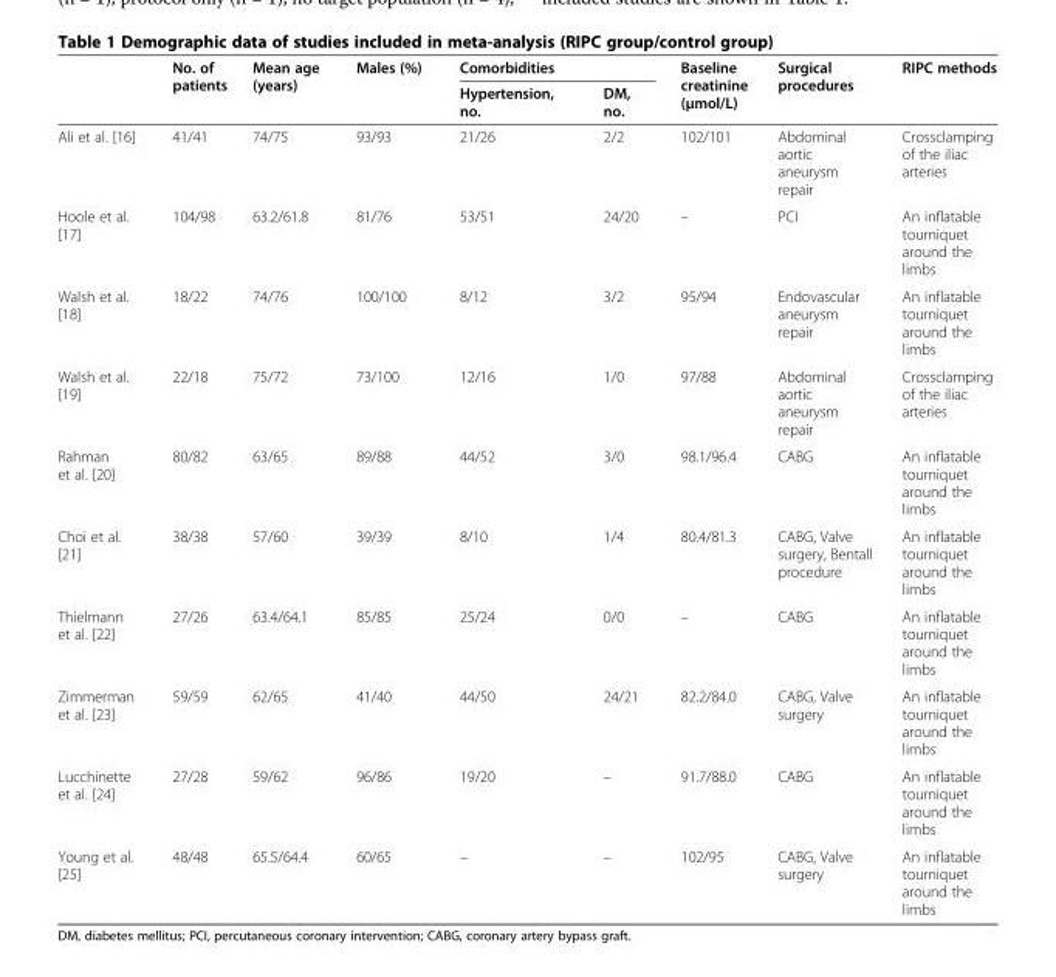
<table><thead><tr><td rowspan="2"></td><td rowspan="2">No. of patients</td><td rowspan="2">Mean age (years)</td><td rowspan="2">Males (%)</td><td colspan="2">Comorbidities</td><td rowspan="2">Baseline creatinine (μmol/L)</td><td rowspan="2">Surgical procedures</td><td rowspan="2">RIPC methods</td></tr><tr><td>Hypertension, no.</td><td>DM, no.</td></tr></thead><tbody><tr><td>Ali et al. [16]</td><td>41/41</td><td>74/75</td><td>93/93</td><td>21/26</td><td>2/2</td><td>102/101</td><td>Abdominal aortic aneurysm repair</td><td>Crossclamping of the iliac arteries</td></tr><tr><td>Hoole et al. [17]</td><td>104/98</td><td>63.2/61.8</td><td>81/76</td><td>53/51</td><td>24/20</td><td>–</td><td>PCI</td><td>An inflatable tourniquet around the limbs</td></tr><tr><td>Walsh et al. [18]</td><td>18/22</td><td>74/76</td><td>100/100</td><td>8/12</td><td>3/2</td><td>95/94</td><td>Endovascular aneurysm repair</td><td>An inflatable tourniquet around the limbs</td></tr><tr><td>Walsh et al. [19]</td><td>22/18</td><td>75/72</td><td>73/100</td><td>12/16</td><td>1/0</td><td>97/88</td><td>Abdominal aortic aneurysm repair</td><td>Crossclamping of the iliac arteries</td></tr><tr><td>Rahman et al. [20]</td><td>80/82</td><td>63/65</td><td>89/88</td><td>44/52</td><td>3/0</td><td>98.1/96.4</td><td>CABG</td><td>An inflatable tourniquet around the limbs</td></tr><tr><td>Choi et al. [21]</td><td>38/38</td><td>57/60</td><td>39/39</td><td>8/10</td><td>1/4</td><td>80.4/81.3</td><td>CABG, Valve surgery, Bentall procedure</td><td>An inflatable tourniquet around the limbs</td></tr><tr><td>Thielmann et al. [22]</td><td>27/26</td><td>63.4/64.1</td><td>85/85</td><td>25/24</td><td>0/0</td><td>–</td><td>CABG</td><td>An inflatable tourniquet around the limbs</td></tr><tr><td>Zimmerman et al. [23]</td><td>59/59</td><td>62/65</td><td>41/40</td><td>44/50</td><td>24/21</td><td>82.2/84.0</td><td>CABG, Valve surgery</td><td>An inflatable tourniquet around the limbs</td></tr><tr><td>Lucchinette et al. [24]</td><td>27/28</td><td>59/62</td><td>96/86</td><td>19/20</td><td>–</td><td>91.7/88.0</td><td>CABG</td><td>An inflatable tourniquet around the limbs</td></tr><tr><td>Young et al. [25]</td><td>48/48</td><td>65.5/64.4</td><td>60/65</td><td>–</td><td>–</td><td>102/95</td><td>CABG, Valve surgery</td><td>An inflatable tourniquet around the limbs</td></tr></tbody></table>